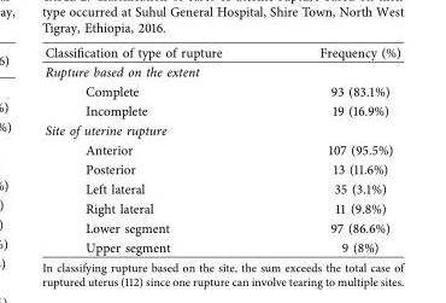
<table><thead><tr><td>Classifcation of type of rupture</td><td>Frequency (%)</td></tr></thead><tbody><tr><td colspan="2">Rupture based on the extent</td></tr><tr><td>Complete</td><td>93 (83.1%)</td></tr><tr><td>Incomplete</td><td>19 (16.9%)</td></tr><tr><td colspan="2">Site of uterine rupture</td></tr><tr><td>Anterior</td><td>107 (95.5%)</td></tr><tr><td>Posterior</td><td>13 (11.6%)</td></tr><tr><td>Left lateral</td><td>35 (3.1%)</td></tr><tr><td>Right lateral</td><td>11 (9.8%)</td></tr><tr><td>Lower segment</td><td>97 (86.6%)</td></tr><tr><td>Upper segment</td><td>9 (8%)</td></tr></tbody></table>